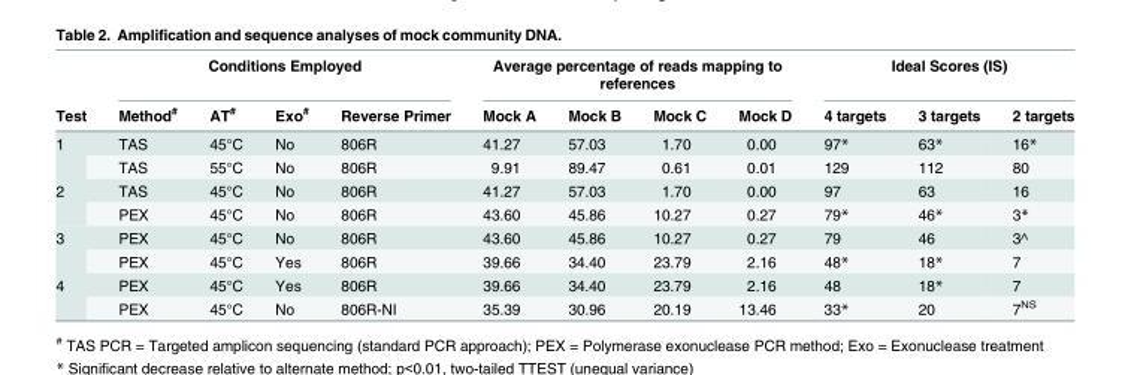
<table><thead><tr><td rowspan="2">Test</td><td colspan="4">Conditions Employed</td><td colspan="4">Average percentage of reads mapping to references</td><td colspan="3">Ideal Scores (IS)</td></tr><tr><td>Method<sup>#</sup></td><td>AT<sup>#</sup></td><td>Exo<sup>#</sup></td><td>Reverse Primer</td><td>Mock A</td><td>Mock B</td><td>Mock C</td><td>Mock D</td><td>4 targets</td><td>3 targets</td><td>2 targets</td></tr></thead><tbody><tr><td rowspan="2">1</td><td>TAS</td><td>45°C</td><td>No</td><td>806R</td><td>41.27</td><td>57.03</td><td>1.70</td><td>0.00</td><td>97*</td><td>63*</td><td>16*</td></tr><tr><td>TAS</td><td>55°C</td><td>No</td><td>806R</td><td>9.91</td><td>89.47</td><td>0.61</td><td>0.01</td><td>129</td><td>112</td><td>80</td></tr><tr><td rowspan="2">2</td><td>TAS</td><td>45°C</td><td>No</td><td>806R</td><td>41.27</td><td>57.03</td><td>1.70</td><td>0.00</td><td>97</td><td>63</td><td>16</td></tr><tr><td>PEX</td><td>45°C</td><td>No</td><td>806R</td><td>43.60</td><td>45.86</td><td>10.27</td><td>0.27</td><td>79*</td><td>46*</td><td>3*</td></tr><tr><td rowspan="2">3</td><td>PEX</td><td>45°C</td><td>No</td><td>806R</td><td>43.60</td><td>45.86</td><td>10.27</td><td>0.27</td><td>79</td><td>46</td><td>3^</td></tr><tr><td>PEX</td><td>45°C</td><td>Yes</td><td>806R</td><td>39.66</td><td>34.40</td><td>23.79</td><td>2.16</td><td>48*</td><td>18*</td><td>7</td></tr><tr><td rowspan="2">4</td><td>PEX</td><td>45°C</td><td>Yes</td><td>806R</td><td>39.66</td><td>34.40</td><td>23.79</td><td>2.16</td><td>48</td><td>18*</td><td>7</td></tr><tr><td>PEX</td><td>45°C</td><td>No</td><td>806R-NI</td><td>35.39</td><td>30.96</td><td>20.19</td><td>13.46</td><td>33*</td><td>20</td><td>7<sup>NS</sup></td></tr></tbody></table>